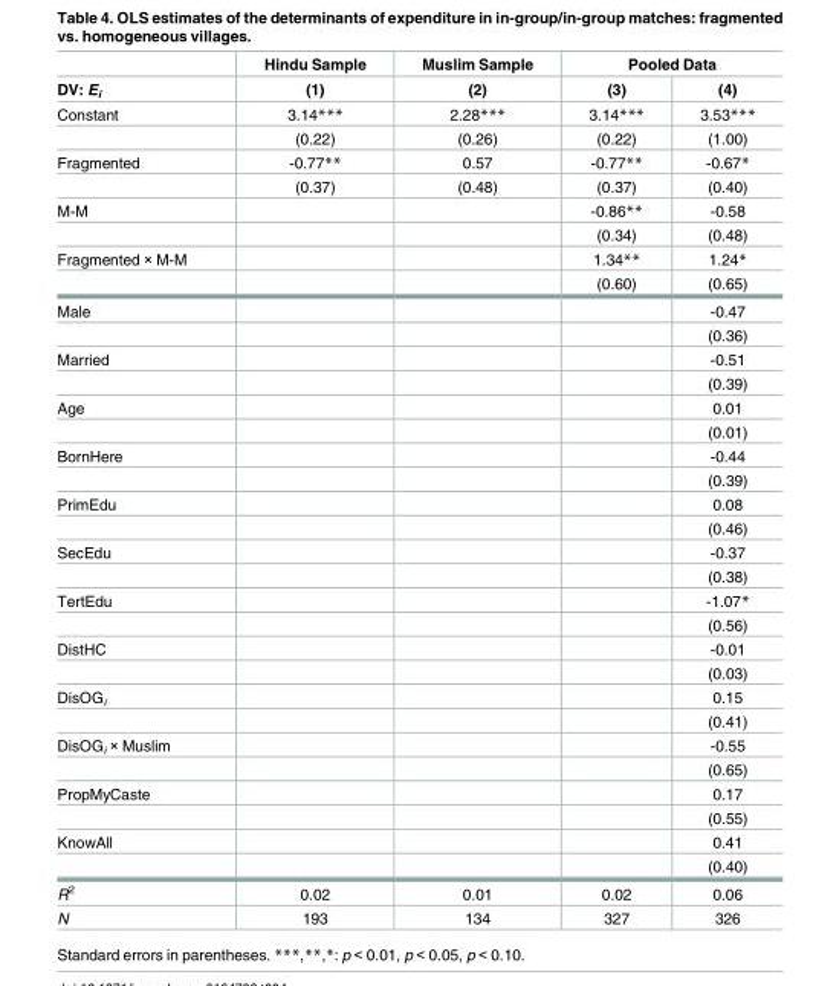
<table><thead><tr><td rowspan="2">DV: E<sub>i</sub></td><td rowspan="2">Hindu Sample (1)</td><td rowspan="2">Muslim Sample (2)</td><td colspan="2">Pooled Data</td></tr><tr><td>(3)</td><td>(4)</td></tr></thead><tbody><tr><td rowspan="2">Constant</td><td>3.14***</td><td>2.28***</td><td>3.14***</td><td>3.53***</td></tr><tr><td>(0.22)</td><td>(0.26)</td><td>(0.22)</td><td>(1.00)</td></tr><tr><td rowspan="2">Fragmented</td><td>-0.77**</td><td>0.57</td><td>-0.77**</td><td>-0.67*</td></tr><tr><td>(0.37)</td><td>(0.48)</td><td>(0.37)</td><td>(0.40)</td></tr><tr><td rowspan="2">M-M</td><td></td><td></td><td>-0.86**</td><td>-0.58</td></tr><tr><td></td><td></td><td>(0.34)</td><td>(0.48)</td></tr><tr><td rowspan="2">Fragmented × M-M</td><td></td><td></td><td>1.34**</td><td>1.24*</td></tr><tr><td></td><td></td><td>(0.60)</td><td>(0.65)</td></tr><tr><td rowspan="2">Male</td><td></td><td></td><td></td><td>-0.47</td></tr><tr><td></td><td></td><td></td><td>(0.36)</td></tr><tr><td rowspan="2">Married</td><td></td><td></td><td></td><td>-0.51</td></tr><tr><td></td><td></td><td></td><td>(0.39)</td></tr><tr><td rowspan="2">Age</td><td></td><td></td><td></td><td>0.01</td></tr><tr><td></td><td></td><td></td><td>(0.01)</td></tr><tr><td rowspan="2">BornHere</td><td></td><td></td><td></td><td>-0.44</td></tr><tr><td></td><td></td><td></td><td>(0.39)</td></tr><tr><td rowspan="2">PrimEdu</td><td></td><td></td><td></td><td>0.08</td></tr><tr><td></td><td></td><td></td><td>(0.46)</td></tr><tr><td rowspan="2">SecEdu</td><td></td><td></td><td></td><td>-0.37</td></tr><tr><td></td><td></td><td></td><td>(0.38)</td></tr><tr><td rowspan="2">TertEdu</td><td></td><td></td><td></td><td>-1.07*</td></tr><tr><td></td><td></td><td></td><td>(0.56)</td></tr><tr><td rowspan="2">DistHC</td><td></td><td></td><td></td><td>-0.01</td></tr><tr><td></td><td></td><td></td><td>(0.03)</td></tr><tr><td rowspan="2">DisOG<sub>i</sub></td><td></td><td></td><td></td><td>0.15</td></tr><tr><td></td><td></td><td></td><td>(0.41)</td></tr><tr><td rowspan="2">DisOG<sub>i</sub> × Muslim</td><td></td><td></td><td></td><td>-0.55</td></tr><tr><td></td><td></td><td></td><td>(0.65)</td></tr><tr><td rowspan="2">PropMyCaste</td><td></td><td></td><td></td><td>0.17</td></tr><tr><td></td><td></td><td></td><td>(0.55)</td></tr><tr><td rowspan="2">KnowAll</td><td></td><td></td><td></td><td>0.41</td></tr><tr><td></td><td></td><td></td><td>(0.40)</td></tr><tr><td>R<sup>2</sup></td><td>0.02</td><td>0.01</td><td>0.02</td><td>0.06</td></tr><tr><td>N</td><td>193</td><td>134</td><td>327</td><td>326</td></tr></tbody></table>